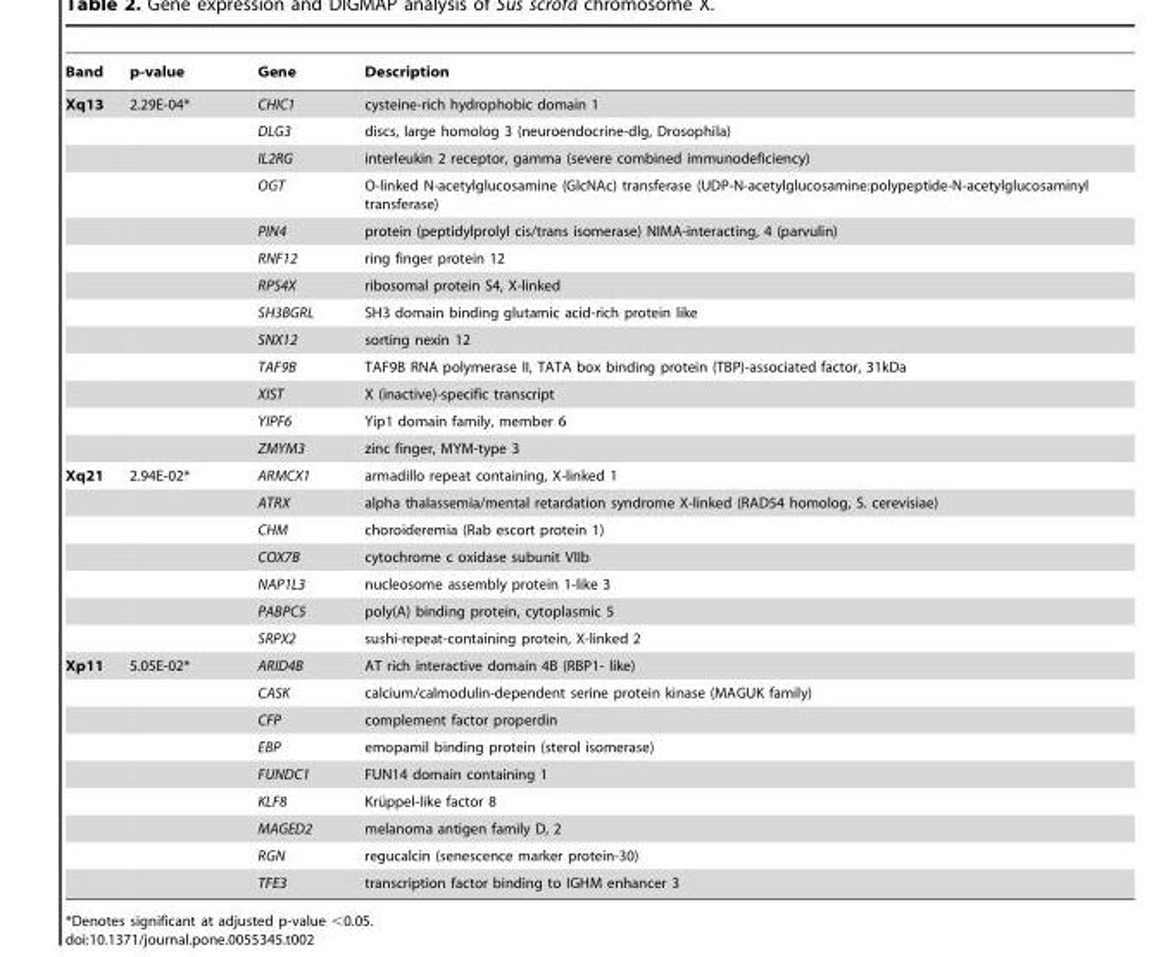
<table><thead><tr><td>Band</td><td>p-value</td><td>Gene</td><td>Description</td></tr></thead><tbody><tr><td rowspan="13">Xq13</td><td>2.29E-04*</td><td>CHIC1</td><td>cysteine-rich hydrophobic domain 1</td></tr><tr><td></td><td>DLG3</td><td>discs, large homolog 3 (neuroendocrine-dlg, Drosophila)</td></tr><tr><td></td><td>IL2RG</td><td>interleukin 2 receptor, gamma (severe combined immunodeficiency)</td></tr><tr><td></td><td>OGT</td><td>O-linked N-acetylglucosamine (GlcNAc) transferase (UDP-N-acetylglucosamine:polypeptide-N-acetylglucosaminyl transferase)</td></tr><tr><td></td><td>PIN4</td><td>protein (peptidylprolyl cis/trans isomerase) NIMA-interacting, 4 (parvulin)</td></tr><tr><td></td><td>RNF12</td><td>ring finger protein 12</td></tr><tr><td></td><td>RPS4X</td><td>ribosomal protein S4, X-linked</td></tr><tr><td></td><td>SH3BGRL</td><td>SH3 domain binding glutamic acid-rich protein like</td></tr><tr><td></td><td>SNX12</td><td>sorting nexin 12</td></tr><tr><td></td><td>TAF9B</td><td>TAF9B RNA polymerase II, TATA box binding protein (TBP)-associated factor, 31kDa</td></tr><tr><td></td><td>XIST</td><td>X (inactive)-specific transcript</td></tr><tr><td></td><td>YIPF6</td><td>Yip1 domain family, member 6</td></tr><tr><td></td><td>ZMYM3</td><td>zinc finger, MYM-type 3</td></tr><tr><td rowspan="7">Xq21</td><td>2.94E-02*</td><td>ARMCX1</td><td>armadillo repeat containing, X-linked 1</td></tr><tr><td></td><td>ATRX</td><td>alpha thalassemia/mental retardation syndrome X-linked (RAD54 homolog, S. cerevisiae)</td></tr><tr><td></td><td>CHM</td><td>choroideremia (Rab escort protein 1)</td></tr><tr><td></td><td>COX7B</td><td>cytochrome c oxidase subunit VIIb</td></tr><tr><td></td><td>NAP1L3</td><td>nucleosome assembly protein 1-like 3</td></tr><tr><td></td><td>PABPC5</td><td>poly(A) binding protein, cytoplasmic 5</td></tr><tr><td></td><td>SRPX2</td><td>sushi-repeat-containing protein, X-linked 2</td></tr><tr><td rowspan="9">Xp11</td><td>5.05E-02*</td><td>ARID4B</td><td>AT rich interactive domain 4B (RBP1- like)</td></tr><tr><td></td><td>CASK</td><td>calcium/calmodulin-dependent serine protein kinase (MAGUK family)</td></tr><tr><td></td><td>CFP</td><td>complement factor properdin</td></tr><tr><td></td><td>EBP</td><td>emopamil binding protein (sterol isomerase)</td></tr><tr><td></td><td>FUNDC1</td><td>FUN14 domain containing 1</td></tr><tr><td></td><td>KLF8</td><td>Kru¨ppel-like factor 8</td></tr><tr><td></td><td>MAGED2</td><td>melanoma antigen family D, 2</td></tr><tr><td></td><td>RGN</td><td>regucalcin (senescence marker protein-30)</td></tr><tr><td></td><td>TFE3</td><td>transcription factor binding to IGHM enhancer 3</td></tr></tbody></table>